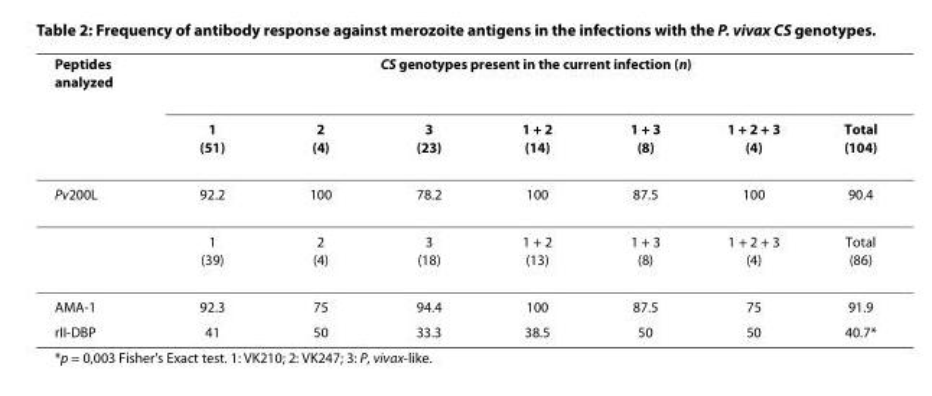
<table><thead><tr><td rowspan="2">Peptides analyzed</td><td colspan="7">CS genotypes present in the current infection (n)</td></tr><tr><td>1 (51)</td><td>2 (4)</td><td>3 (23)</td><td>1 + 2 (14)</td><td>1 + 3 (8)</td><td>1 + 2 + 3 (4)</td><td>Total (104)</td></tr></thead><tbody><tr><td rowspan="2">Pv200L</td><td>92.2</td><td>100</td><td>78.2</td><td>100</td><td>87.5</td><td>100</td><td>90.4</td></tr><tr><td>1 (39)</td><td>2 (4)</td><td>3 (18)</td><td>1 + 2 (13)</td><td>1 + 3 (8)</td><td>1 + 2 + 3 (4)</td><td>Total (86)</td></tr><tr><td>AMA-1</td><td>92.3</td><td>75</td><td>94.4</td><td>100</td><td>87.5</td><td>75</td><td>91.9</td></tr><tr><td>rII-DBP</td><td>41</td><td>50</td><td>33.3</td><td>38.5</td><td>50</td><td>50</td><td>40.7*</td></tr></tbody></table>